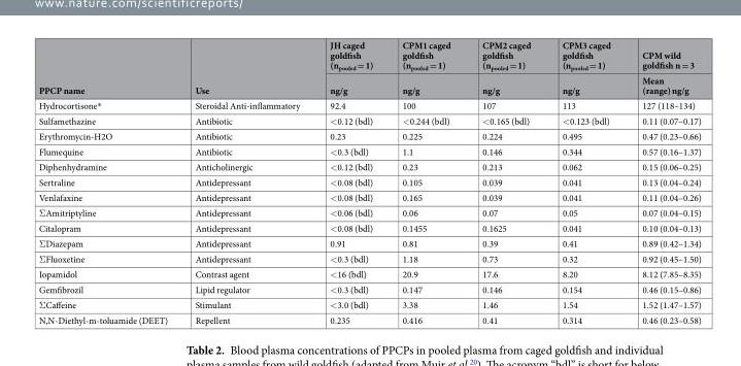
<table><thead><tr><td rowspan="2">PPCP name</td><td rowspan="2">Use</td><td rowspan="2">JH caged goldfish (n<sub>pooled</sub> = 1) ng/g</td><td rowspan="2">CPM1 caged goldfish (n<sub>pooled</sub> = 1) ng/g</td><td rowspan="2">CPM2 caged goldfish (n<sub>pooled</sub> = 1) ng/g</td><td rowspan="2">CPM3 caged goldfish (n<sub>pooled</sub> = 1) ng/g</td><td rowspan="2">CPM wild goldfish n = 3 Mean (range) ng/g</td></tr><tr></tr></thead><tbody><tr><td>Hydrocortisone*</td><td>Steroidal Anti-inflammatory</td><td>92.4</td><td>100</td><td>107</td><td>113</td><td>127 (118–134)</td></tr><tr><td>Sulfamethazine</td><td>Antibiotic</td><td>&lt;0.12 (bdl)</td><td>&lt;0.244 (bdl)</td><td>&lt;0.165 (bdl)</td><td>&lt;0.123 (bdl)</td><td>0.11 (0.07–0.17)</td></tr><tr><td>Erythromycin-H2O</td><td>Antibiotic</td><td>0.23</td><td>0.225</td><td>0.224</td><td>0.495</td><td>0.47 (0.23–0.66)</td></tr><tr><td>Flumequine</td><td>Antibiotic</td><td>&lt;0.3 (bdl)</td><td>1.1</td><td>0.146</td><td>0.344</td><td>0.57 (0.16–1.37)</td></tr><tr><td>Diphenhydramine</td><td>Anticholinergic</td><td>&lt;0.12 (bdl)</td><td>0.23</td><td>0.213</td><td>0.062</td><td>0.15 (0.06–0.25)</td></tr><tr><td>Sertraline</td><td>Antidepressant</td><td>&lt;0.08 (bdl)</td><td>0.105</td><td>0.039</td><td>0.041</td><td>0.13 (0.04–0.24)</td></tr><tr><td>Venlafaxine</td><td>Antidepressant</td><td>&lt;0.08 (bdl)</td><td>0.165</td><td>0.039</td><td>0.041</td><td>0.11 (0.04–0.26)</td></tr><tr><td>ΣAmitriptyline</td><td>Antidepressant</td><td>&lt;0.06 (bdl)</td><td>0.06</td><td>0.07</td><td>0.05</td><td>0.07 (0.04–0.15)</td></tr><tr><td>Citalopram</td><td>Antidepressant</td><td>&lt;0.08 (bdl)</td><td>0.1455</td><td>0.1625</td><td>0.041</td><td>0.10 (0.04–0.13)</td></tr><tr><td>ΣDiazepam</td><td>Antidepressant</td><td>0.91</td><td>0.81</td><td>0.39</td><td>0.41</td><td>0.89 (0.42–1.34)</td></tr><tr><td>ΣFluoxetine</td><td>Antidepressant</td><td>&lt;0.3 (bdl)</td><td>1.18</td><td>0.73</td><td>0.32</td><td>0.92 (0.45–1.50)</td></tr><tr><td>Iopamidol</td><td>Contrast agent</td><td>&lt;16 (bdl)</td><td>20.9</td><td>17.6</td><td>8.20</td><td>8.12 (7.85–8.35)</td></tr><tr><td>Gemfibrozil</td><td>Lipid regulator</td><td>&lt;0.3 (bdl)</td><td>0.147</td><td>0.146</td><td>0.154</td><td>0.46 (0.15–0.86)</td></tr><tr><td>ΣCaffeine</td><td>Stimulant</td><td>&lt;3.0 (bdl)</td><td>3.38</td><td>1.46</td><td>1.54</td><td>1.52 (1.47–1.57)</td></tr><tr><td>N,N-Diethyl-m-toluamide (DEET)</td><td>Repellent</td><td>0.235</td><td>0.416</td><td>0.41</td><td>0.314</td><td>0.46 (0.23–0.58)</td></tr></tbody></table>